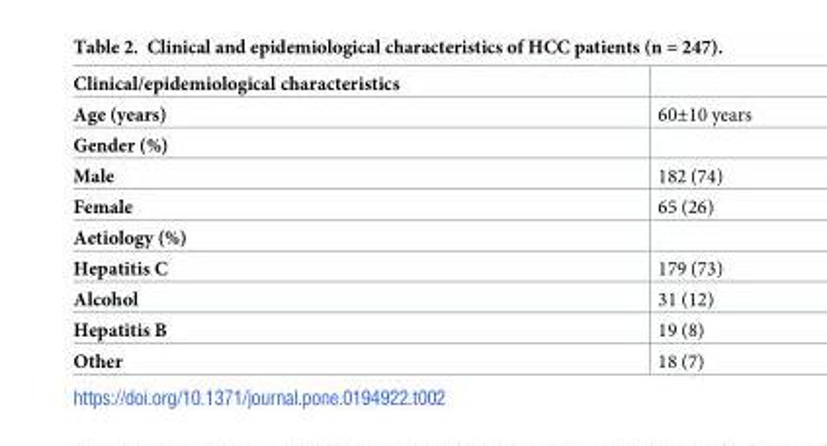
<table><thead><tr><td>Clinical/epidemiological characteristics</td><td></td></tr></thead><tbody><tr><td>Age (years)</td><td>60±10 years</td></tr><tr><td colspan="2">Gender (%)</td></tr><tr><td>Male</td><td>182 (74)</td></tr><tr><td>Female</td><td>65 (26)</td></tr><tr><td colspan="2">Aetiology (%)</td></tr><tr><td>Hepatitis C</td><td>179 (73)</td></tr><tr><td>Alcohol</td><td>31 (12)</td></tr><tr><td>Hepatitis B</td><td>19 (8)</td></tr><tr><td>Other</td><td>18 (7)</td></tr></tbody></table>